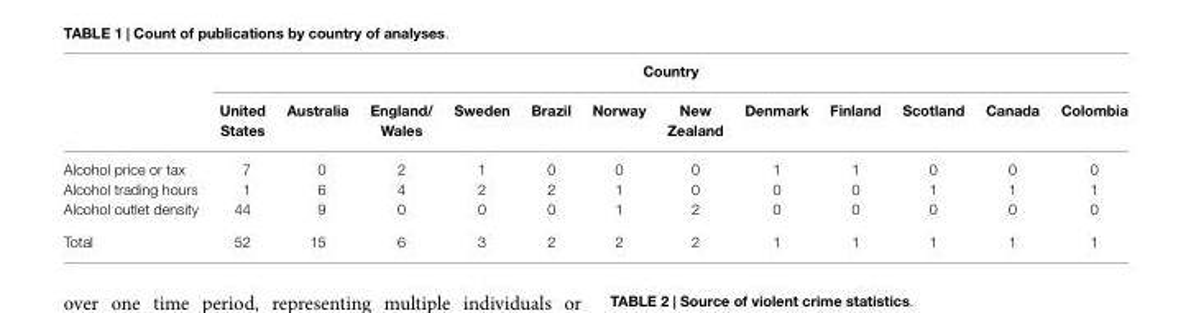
<table><thead><tr><td rowspan="2"></td><td colspan="12">Country</td></tr><tr><td>United States</td><td>Australia</td><td>England/ Wales</td><td>Sweden</td><td>Brazil</td><td>Norway</td><td>New Zealand</td><td>Denmark</td><td>Finland</td><td>Scotland</td><td>Canada</td><td>Colombia</td></tr></thead><tbody><tr><td>Alcohol price or tax</td><td>7</td><td>0</td><td>2</td><td>1</td><td>0</td><td>0</td><td>0</td><td>1</td><td>1</td><td>0</td><td>0</td><td>0</td></tr><tr><td>Alcohol trading hours</td><td>1</td><td>6</td><td>4</td><td>2</td><td>2</td><td>1</td><td>0</td><td>0</td><td>0</td><td>1</td><td>1</td><td>1</td></tr><tr><td>Alcohol outlet density</td><td>44</td><td>9</td><td>0</td><td>0</td><td>0</td><td>1</td><td>2</td><td>0</td><td>0</td><td>0</td><td>0</td><td>0</td></tr><tr><td>Total</td><td>52</td><td>15</td><td>6</td><td>3</td><td>2</td><td>2</td><td>2</td><td>1</td><td>1</td><td>1</td><td>1</td><td>1</td></tr></tbody></table>